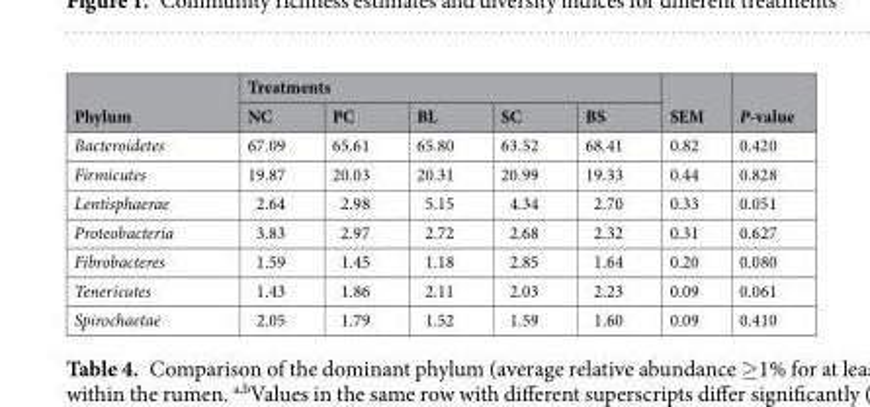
<table><thead><tr><td rowspan="2">Phylum</td><td colspan="5">Treatments</td><td rowspan="2">SEM</td><td rowspan="2">P-value</td></tr><tr><td>NC</td><td>PC</td><td>BL</td><td>SC</td><td>BS</td></tr></thead><tbody><tr><td>Bacteroidetes</td><td>67.09</td><td>65.61</td><td>65.80</td><td>63.52</td><td>68.41</td><td>0.82</td><td>0.420</td></tr><tr><td>Firmicutes</td><td>19.87</td><td>20.03</td><td>20.31</td><td>20.99</td><td>19.33</td><td>0.44</td><td>0.828</td></tr><tr><td>Lentisphaerae</td><td>2.64</td><td>2.98</td><td>5.15</td><td>4.34</td><td>2.70</td><td>0.33</td><td>0.051</td></tr><tr><td>Proteobacteria</td><td>3.83</td><td>2.97</td><td>2.72</td><td>2.68</td><td>2.32</td><td>0.31</td><td>0.627</td></tr><tr><td>Fibrobacteres</td><td>1.59</td><td>1.45</td><td>1.18</td><td>2.85</td><td>1.64</td><td>0.20</td><td>0.080</td></tr><tr><td>Tenericutes</td><td>1.43</td><td>1.86</td><td>2.11</td><td>2.03</td><td>2.23</td><td>0.09</td><td>0.061</td></tr><tr><td>Spirochaetae</td><td>2.05</td><td>1.79</td><td>1.52</td><td>1.59</td><td>1.60</td><td>0.09</td><td>0.410</td></tr></tbody></table>